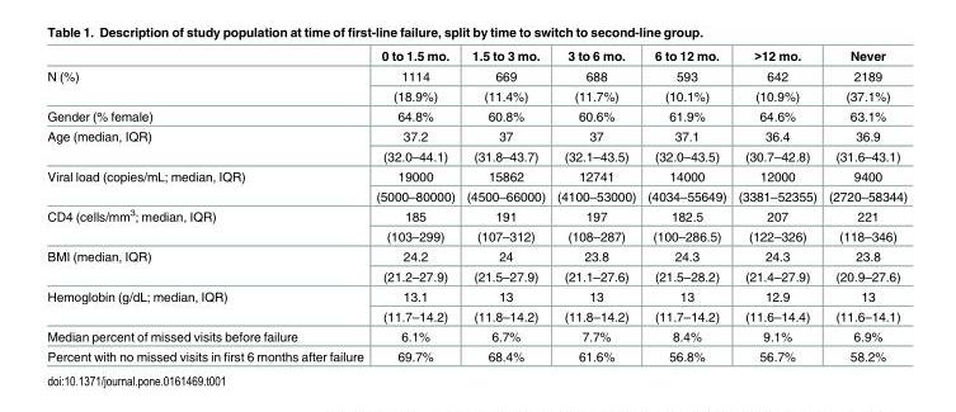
<table><thead><tr><td></td><td>0 to 1.5 mo.</td><td>1.5 to 3 mo.</td><td>3 to 6 mo.</td><td>6 to 12 mo.</td><td>&gt;12 mo.</td><td>Never</td></tr></thead><tbody><tr><td rowspan="2">N (%)</td><td>1114</td><td>669</td><td>688</td><td>593</td><td>642</td><td>2189</td></tr><tr><td>(18.9%)</td><td>(11.4%)</td><td>(11.7%)</td><td>(10.1%)</td><td>(10.9%)</td><td>(37.1%)</td></tr><tr><td>Gender (% female)</td><td>64.8%</td><td>60.8%</td><td>60.6%</td><td>61.9%</td><td>64.6%</td><td>63.1%</td></tr><tr><td rowspan="2">Age (median, IQR)</td><td>37.2</td><td>37</td><td>37</td><td>37.1</td><td>36.4</td><td>36.9</td></tr><tr><td>(32.0–44.1)</td><td>(31.8–43.7)</td><td>(32.1–43.5)</td><td>(32.0–43.5)</td><td>(30.7–42.8)</td><td>(31.6–43.1)</td></tr><tr><td rowspan="2">Viral load (copies/mL; median, IQR)</td><td>19000</td><td>15862</td><td>12741</td><td>14000</td><td>12000</td><td>9400</td></tr><tr><td>(5000–80000)</td><td>(4500–66000)</td><td>(4100–53000)</td><td>(4034–55649)</td><td>(3381–52355)</td><td>(2720–58344)</td></tr><tr><td rowspan="2">CD4 (cells/mm<sup>3</sup>; median, IQR)</td><td>185</td><td>191</td><td>197</td><td>182.5</td><td>207</td><td>221</td></tr><tr><td>(103–299)</td><td>(107–312)</td><td>(108–287)</td><td>(100–286.5)</td><td>(122–326)</td><td>(118–346)</td></tr><tr><td rowspan="2">BMI (median, IQR)</td><td>24.2</td><td>24</td><td>23.8</td><td>24.3</td><td>24.3</td><td>23.8</td></tr><tr><td>(21.2–27.9)</td><td>(21.5–27.9)</td><td>(21.1–27.6)</td><td>(21.5–28.2)</td><td>(21.4–27.9)</td><td>(20.9–27.6)</td></tr><tr><td rowspan="2">Hemoglobin (g/dL; median, IQR)</td><td>13.1</td><td>13</td><td>13</td><td>13</td><td>12.9</td><td>13</td></tr><tr><td>(11.7–14.2)</td><td>(11.8–14.2)</td><td>(11.8–14.2)</td><td>(11.7–14.2)</td><td>(11.6–14.4)</td><td>(11.6–14.1)</td></tr><tr><td>Median percent of missed visits before failure</td><td>6.1%</td><td>6.7%</td><td>7.7%</td><td>8.4%</td><td>9.1%</td><td>6.9%</td></tr><tr><td>Percent with no missed visits in first 6 months after failure</td><td>69.7%</td><td>68.4%</td><td>61.6%</td><td>56.8%</td><td>56.7%</td><td>58.2%</td></tr></tbody></table>